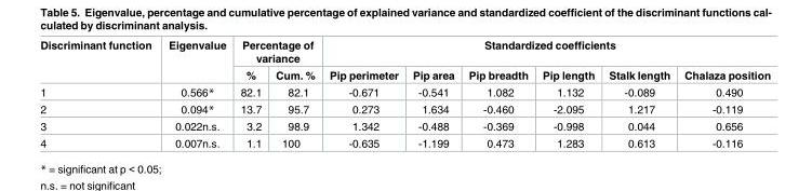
<table><thead><tr><td rowspan="2">Discriminant function</td><td rowspan="2">Eigenvalue</td><td colspan="2">Percentage of variance</td><td colspan="6">Standardized coefficients</td></tr><tr><td>%</td><td>Cum. %</td><td>Pip perimeter</td><td>Pip area</td><td>Pip breadth</td><td>Pip length</td><td>Stalk length</td><td>Chalaza position</td></tr></thead><tbody><tr><td>1</td><td>0.566*</td><td>82.1</td><td>82.1</td><td>-0.671</td><td>-0.541</td><td>1.082</td><td>1.132</td><td>-0.089</td><td>0.490</td></tr><tr><td>2</td><td>0.094*</td><td>13.7</td><td>95.7</td><td>0.273</td><td>1.634</td><td>-0.460</td><td>-2.095</td><td>1.217</td><td>-0.119</td></tr><tr><td>3</td><td>0.022n.s.</td><td>3.2</td><td>98.9</td><td>1.342</td><td>-0.488</td><td>-0.369</td><td>-0.998</td><td>0.044</td><td>0.656</td></tr><tr><td>4</td><td>0.007n.s.</td><td>1.1</td><td>100</td><td>-0.635</td><td>-1.199</td><td>0.473</td><td>1.283</td><td>0.613</td><td>-0.116</td></tr></tbody></table>